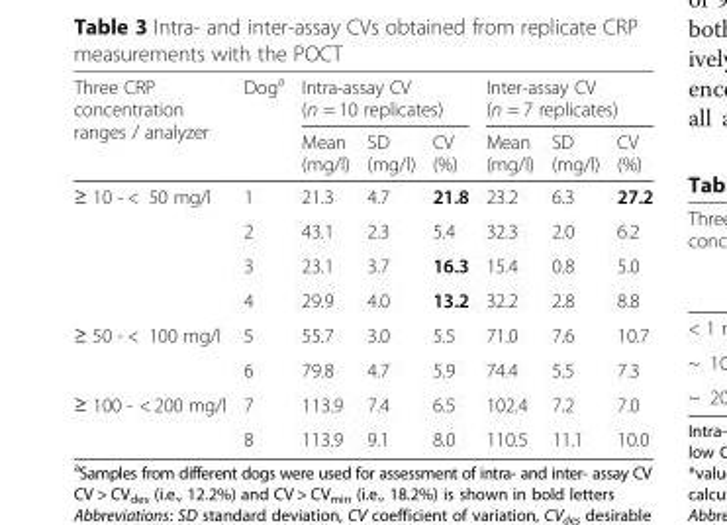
<table><thead><tr><td rowspan="2">Three CRP concentration ranges / analyzer</td><td rowspan="2">Dog<sup>a</sup></td><td colspan="3">Intra-assay CV (n = 10 replicates)</td><td colspan="3">Inter-assay CV (n = 7 replicates)</td></tr><tr><td>Mean (mg/l)</td><td>SD (mg/l)</td><td>CV (%)</td><td>Mean (mg/l)</td><td>SD (mg/l)</td><td>CV (%)</td></tr></thead><tbody><tr><td rowspan="4">≥ 10 - &lt; 50 mg/l</td><td>1</td><td>21.3</td><td>4.7</td><td>21.8</td><td>23.2</td><td>6.3</td><td>27.2</td></tr><tr><td>2</td><td>43.1</td><td>2.3</td><td>5.4</td><td>32.3</td><td>2.0</td><td>6.2</td></tr><tr><td>3</td><td>23.1</td><td>3.7</td><td>16.3</td><td>15.4</td><td>0.8</td><td>5.0</td></tr><tr><td>4</td><td>29.9</td><td>4.0</td><td>13.2</td><td>32.2</td><td>2.8</td><td>8.8</td></tr><tr><td rowspan="2">≥ 50 - &lt; 100 mg/l</td><td>5</td><td>55.7</td><td>3.0</td><td>5.5</td><td>71.0</td><td>7.6</td><td>10.7</td></tr><tr><td>6</td><td>79.8</td><td>4.7</td><td>5.9</td><td>74.4</td><td>5.5</td><td>7.3</td></tr><tr><td rowspan="2">≥ 100 - &lt; 200 mg/l</td><td>7</td><td>113.9</td><td>7.4</td><td>6.5</td><td>102.4</td><td>7.2</td><td>7.0</td></tr><tr><td>8</td><td>113.9</td><td>9.1</td><td>8.0</td><td>110.5</td><td>11.1</td><td>10.0</td></tr></tbody></table>